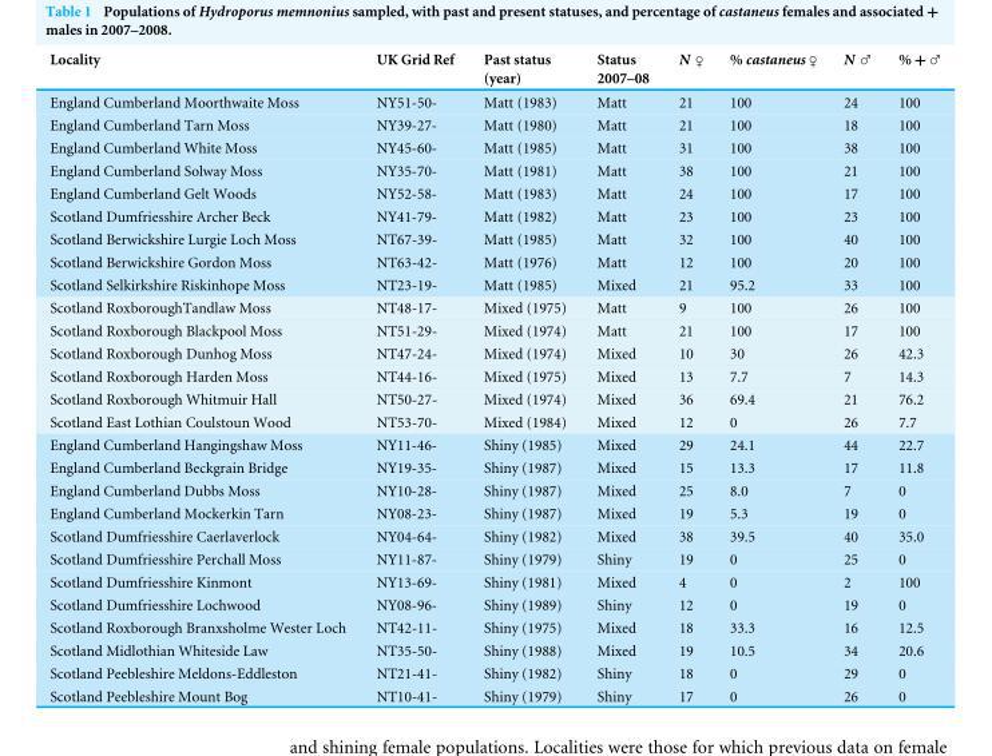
<table><thead><tr><td>Locality</td><td>UK Grid Ref</td><td>Past status (year)</td><td>Status 2007–08</td><td>N ♀</td><td>% castaneus ♀</td><td>N ♂</td><td>% + ♂</td></tr></thead><tbody><tr><td>England Cumberland Moorthwaite Moss</td><td>NY51-50-</td><td>Matt (1983)</td><td>Matt</td><td>21</td><td>100</td><td>24</td><td>100</td></tr><tr><td>England Cumberland Tarn Moss</td><td>NY39-27-</td><td>Matt (1980)</td><td>Matt</td><td>21</td><td>100</td><td>18</td><td>100</td></tr><tr><td>England Cumberland White Moss</td><td>NY45-60-</td><td>Matt (1985)</td><td>Matt</td><td>31</td><td>100</td><td>38</td><td>100</td></tr><tr><td>England Cumberland Solway Moss</td><td>NY35-70-</td><td>Matt (1981)</td><td>Matt</td><td>38</td><td>100</td><td>21</td><td>100</td></tr><tr><td>England Cumberland Gelt Woods</td><td>NY52-58-</td><td>Matt (1983)</td><td>Matt</td><td>24</td><td>100</td><td>17</td><td>100</td></tr><tr><td>Scotland Dumfriesshire Archer Beck</td><td>NY41-79-</td><td>Matt (1982)</td><td>Matt</td><td>23</td><td>100</td><td>23</td><td>100</td></tr><tr><td>Scotland Berwickshire Lurgie Loch Moss</td><td>NT67-39-</td><td>Matt (1985)</td><td>Matt</td><td>32</td><td>100</td><td>40</td><td>100</td></tr><tr><td>Scotland Berwickshire Gordon Moss</td><td>NT63-42-</td><td>Matt (1976)</td><td>Matt</td><td>12</td><td>100</td><td>20</td><td>100</td></tr><tr><td>Scotland Selkirkshire Riskinhope Moss</td><td>NT23-19-</td><td>Matt (1985)</td><td>Mixed</td><td>21</td><td>95.2</td><td>33</td><td>100</td></tr><tr><td>Scotland RoxboroughTandlaw Moss</td><td>NT48-17-</td><td>Mixed (1975)</td><td>Matt</td><td>9</td><td>100</td><td>26</td><td>100</td></tr><tr><td>Scotland Roxborough Blackpool Moss</td><td>NT51-29-</td><td>Mixed (1974)</td><td>Matt</td><td>21</td><td>100</td><td>17</td><td>100</td></tr><tr><td>Scotland Roxborough Dunhog Moss</td><td>NT47-24-</td><td>Mixed (1974)</td><td>Mixed</td><td>10</td><td>30</td><td>26</td><td>42.3</td></tr><tr><td>Scotland Roxborough Harden Moss</td><td>NT44-16-</td><td>Mixed (1975)</td><td>Mixed</td><td>13</td><td>7.7</td><td>7</td><td>14.3</td></tr><tr><td>Scotland Roxborough Whitmuir Hall</td><td>NT50-27-</td><td>Mixed (1974)</td><td>Mixed</td><td>36</td><td>69.4</td><td>21</td><td>76.2</td></tr><tr><td>Scotland East Lothian Coulstoun Wood</td><td>NT53-70-</td><td>Mixed (1984)</td><td>Mixed</td><td>12</td><td>0</td><td>26</td><td>7.7</td></tr><tr><td>England Cumberland Hangingshaw Moss</td><td>NY11-46-</td><td>Shiny (1985)</td><td>Mixed</td><td>29</td><td>24.1</td><td>44</td><td>22.7</td></tr><tr><td>England Cumberland Beckgrain Bridge</td><td>NY19-35-</td><td>Shiny (1987)</td><td>Mixed</td><td>15</td><td>13.3</td><td>17</td><td>11.8</td></tr><tr><td>England Cumberland Dubbs Moss</td><td>NY10-28-</td><td>Shiny (1987)</td><td>Mixed</td><td>25</td><td>8.0</td><td>7</td><td>0</td></tr><tr><td>England Cumberland Mockerkin Tarn</td><td>NY08-23-</td><td>Shiny (1987)</td><td>Mixed</td><td>19</td><td>5.3</td><td>19</td><td>0</td></tr><tr><td>Scotland Dumfriesshire Caerlaverlock</td><td>NY04-64-</td><td>Shiny (1982)</td><td>Mixed</td><td>38</td><td>39.5</td><td>40</td><td>35.0</td></tr><tr><td>Scotland Dumfriesshire Perchall Moss</td><td>NY11-87-</td><td>Shiny (1979)</td><td>Shiny</td><td>19</td><td>0</td><td>25</td><td>0</td></tr><tr><td>Scotland Dumfriesshire Kinmont</td><td>NY13-69-</td><td>Shiny (1981)</td><td>Mixed</td><td>4</td><td>0</td><td>2</td><td>100</td></tr><tr><td>Scotland Dumfriesshire Lochwood</td><td>NY08-96-</td><td>Shiny (1989)</td><td>Shiny</td><td>12</td><td>0</td><td>19</td><td>0</td></tr><tr><td>Scotland Roxborough Branxsholme Wester Loch</td><td>NT42-11-</td><td>Shiny (1975)</td><td>Mixed</td><td>18</td><td>33.3</td><td>16</td><td>12.5</td></tr><tr><td>Scotland Midlothian Whiteside Law</td><td>NT35-50-</td><td>Shiny (1988)</td><td>Mixed</td><td>19</td><td>10.5</td><td>34</td><td>20.6</td></tr><tr><td>Scotland Peebleshire Meldons-Eddleston</td><td>NT21-41-</td><td>Shiny (1982)</td><td>Shiny</td><td>18</td><td>0</td><td>29</td><td>0</td></tr><tr><td>Scotland Peebleshire Mount Bog</td><td>NT10-41-</td><td>Shiny (1979)</td><td>Shiny</td><td>17</td><td>0</td><td>26</td><td>0</td></tr></tbody></table>